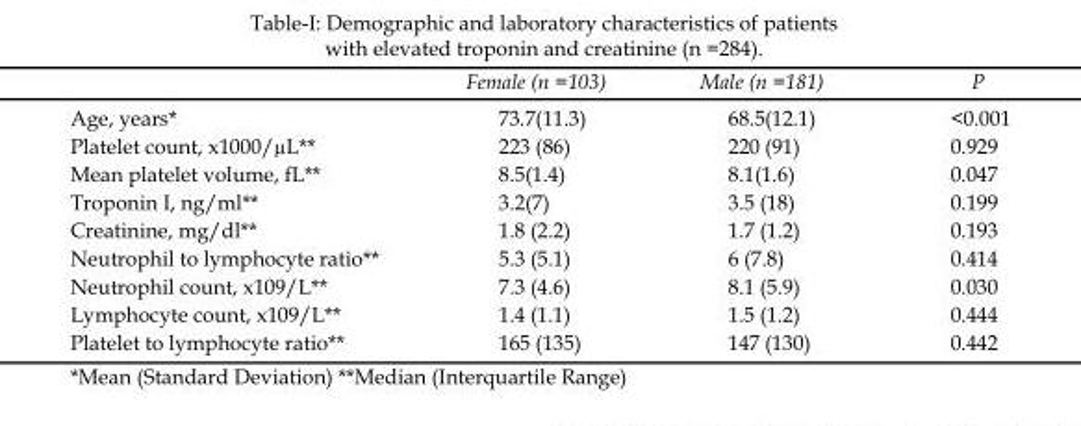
<table><thead><tr><td></td><td>Female (n =103)</td><td>Male (n =181)</td><td>P</td></tr></thead><tbody><tr><td>Age, years*</td><td>73.7(11.3)</td><td>68.5(12.1)</td><td>&lt;0.001</td></tr><tr><td>Platelet count, x1000/µL**</td><td>223 (86)</td><td>220 (91)</td><td>0.929</td></tr><tr><td>Mean platelet volume, fL**</td><td>8.5(1.4)</td><td>8.1(1.6)</td><td>0.047</td></tr><tr><td>Troponin I, ng/ml**</td><td>3.2(7)</td><td>3.5 (18)</td><td>0.199</td></tr><tr><td>Creatinine, mg/dl**</td><td>1.8 (2.2)</td><td>1.7 (1.2)</td><td>0.193</td></tr><tr><td>Neutrophil to lymphocyte ratio**</td><td>5.3 (5.1)</td><td>6 (7.8)</td><td>0.414</td></tr><tr><td>Neutrophil count, x109/L**</td><td>7.3 (4.6)</td><td>8.1 (5.9)</td><td>0.030</td></tr><tr><td>Lymphocyte count, x109/L**</td><td>1.4 (1.1)</td><td>1.5 (1.2)</td><td>0.444</td></tr><tr><td>Platelet to lymphocyte ratio**</td><td>165 (135)</td><td>147 (130)</td><td>0.442</td></tr></tbody></table>